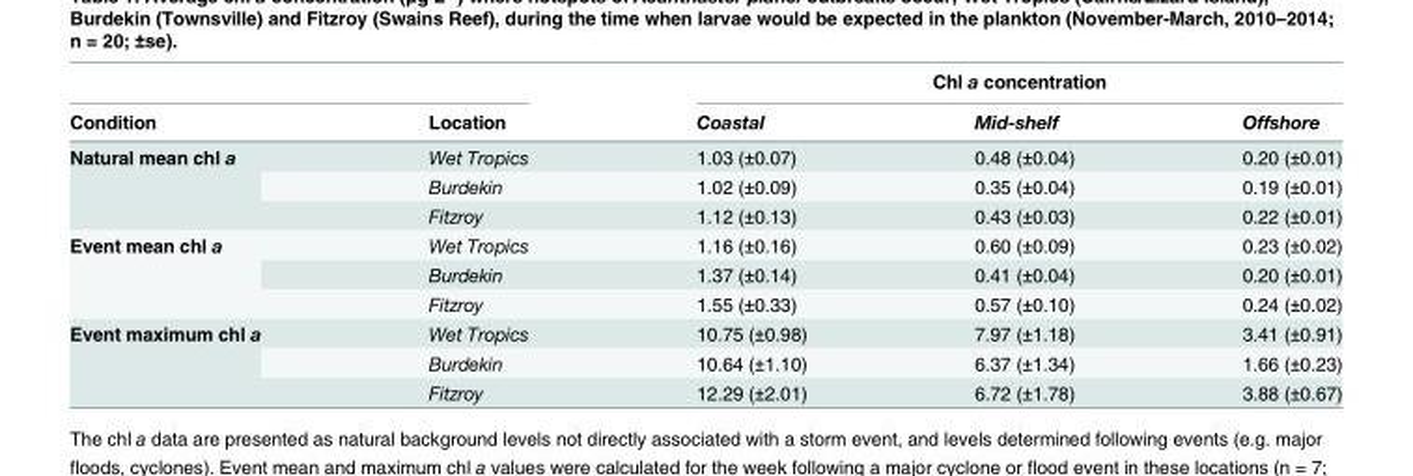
<table><thead><tr><td rowspan="2">Condition</td><td rowspan="2">Location</td><td colspan="3">Chl a concentration</td></tr><tr><td>Coastal</td><td>Mid-shelf</td><td>Offshore</td></tr></thead><tbody><tr><td rowspan="3">Natural mean chl a</td><td>Wet Tropics</td><td>1.03 (±0.07)</td><td>0.48 (±0.04)</td><td>0.20 (±0.01)</td></tr><tr><td>Burdekin</td><td>1.02 (±0.09)</td><td>0.35 (±0.04)</td><td>0.19 (±0.01)</td></tr><tr><td>Fitzroy</td><td>1.12 (±0.13)</td><td>0.43 (±0.03)</td><td>0.22 (±0.01)</td></tr><tr><td rowspan="3">Event mean chl a</td><td>Wet Tropics</td><td>1.16 (±0.16)</td><td>0.60 (±0.09)</td><td>0.23 (±0.02)</td></tr><tr><td>Burdekin</td><td>1.37 (±0.14)</td><td>0.41 (±0.04)</td><td>0.20 (±0.01)</td></tr><tr><td>Fitzroy</td><td>1.55 (±0.33)</td><td>0.57 (±0.10)</td><td>0.24 (±0.02)</td></tr><tr><td rowspan="3">Event maximum chl a</td><td>Wet Tropics</td><td>10.75 (±0.98)</td><td>7.97 (±1.18)</td><td>3.41 (±0.91)</td></tr><tr><td>Burdekin</td><td>10.64 (±1.10)</td><td>6.37 (±1.34)</td><td>1.66 (±0.23)</td></tr><tr><td>Fitzroy</td><td>12.29 (±2.01)</td><td>6.72 (±1.78)</td><td>3.88 (±0.67)</td></tr></tbody></table>